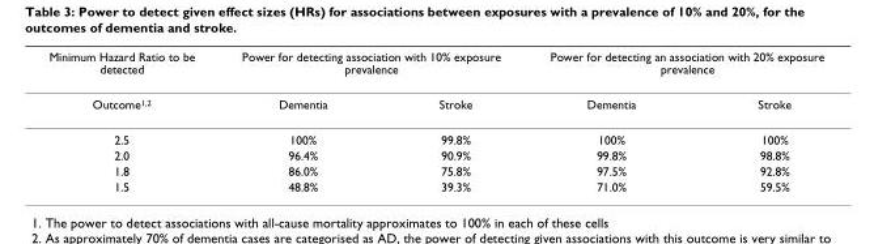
<table><thead><tr><td rowspan="2">Minimum Hazard Ratio to be detected Outcome1,2</td><td colspan="2">Power for detecting association with 10% exposure prevalence</td><td colspan="2">Power for detecting an association with 20% exposure prevalence</td></tr><tr><td>Dementia</td><td>Stroke</td><td>Dementia</td><td>Stroke</td></tr></thead><tbody><tr><td>2.5</td><td>100%</td><td>99.8%</td><td>100%</td><td>100%</td></tr><tr><td>2.0</td><td>96.4%</td><td>90.9%</td><td>99.8%</td><td>98.8%</td></tr><tr><td>1.8</td><td>86.0%</td><td>75.8%</td><td>97.5%</td><td>92.8%</td></tr><tr><td>1.5</td><td>48.8%</td><td>39.3%</td><td>71.0%</td><td>59.5%</td></tr></tbody></table>